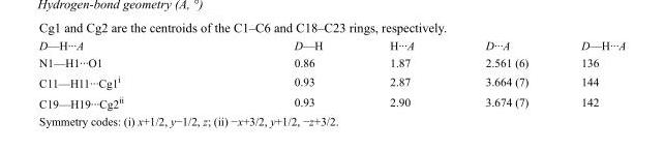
<table><tbody><tr><td>D—H···A</td><td>D—H</td><td>H···A</td><td>D···A</td><td>D—H···A</td></tr><tr><td>N1—H1···O1</td><td>0.86</td><td>1.87</td><td>2.561 (6)</td><td>136</td></tr><tr><td>C11—H11···Cg1<sup>i</sup></td><td>0.93</td><td>2.87</td><td>3.664 (7)</td><td>144</td></tr><tr><td>C19—H19···Cg2<sup>ii</sup></td><td>0.93</td><td>2.90</td><td>3.674 (7)</td><td>142</td></tr></tbody></table>